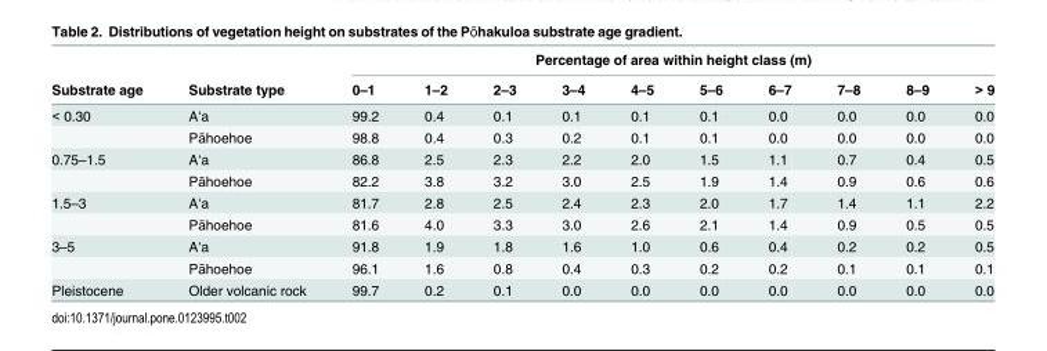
<table><thead><tr><td rowspan="2">Substrate age</td><td rowspan="2">Substrate type</td><td colspan="10">Percentage of area within height class (m)</td></tr><tr><td>0–1</td><td>1–2</td><td>2–3</td><td>3–4</td><td>4–5</td><td>5–6</td><td>6–7</td><td>7–8</td><td>8–9</td><td>&gt; 9</td></tr></thead><tbody><tr><td rowspan="2">&lt; 0.30</td><td>Aʻa</td><td>99.2</td><td>0.4</td><td>0.1</td><td>0.1</td><td>0.1</td><td>0.1</td><td>0.0</td><td>0.0</td><td>0.0</td><td>0.0</td></tr><tr><td>Pāhoehoe</td><td>98.8</td><td>0.4</td><td>0.3</td><td>0.2</td><td>0.1</td><td>0.1</td><td>0.0</td><td>0.0</td><td>0.0</td><td>0.0</td></tr><tr><td rowspan="2">0.75–1.5</td><td>Aʻa</td><td>86.8</td><td>2.5</td><td>2.3</td><td>2.2</td><td>2.0</td><td>1.5</td><td>1.1</td><td>0.7</td><td>0.4</td><td>0.5</td></tr><tr><td>Pāhoehoe</td><td>82.2</td><td>3.8</td><td>3.2</td><td>3.0</td><td>2.5</td><td>1.9</td><td>1.4</td><td>0.9</td><td>0.6</td><td>0.6</td></tr><tr><td rowspan="2">1.5–3</td><td>Aʻa</td><td>81.7</td><td>2.8</td><td>2.5</td><td>2.4</td><td>2.3</td><td>2.0</td><td>1.7</td><td>1.4</td><td>1.1</td><td>2.2</td></tr><tr><td>Pāhoehoe</td><td>81.6</td><td>4.0</td><td>3.3</td><td>3.0</td><td>2.6</td><td>2.1</td><td>1.4</td><td>0.9</td><td>0.5</td><td>0.5</td></tr><tr><td rowspan="2">3–5</td><td>Aʻa</td><td>91.8</td><td>1.9</td><td>1.8</td><td>1.6</td><td>1.0</td><td>0.6</td><td>0.4</td><td>0.2</td><td>0.2</td><td>0.5</td></tr><tr><td>Pāhoehoe</td><td>96.1</td><td>1.6</td><td>0.8</td><td>0.4</td><td>0.3</td><td>0.2</td><td>0.2</td><td>0.1</td><td>0.1</td><td>0.1</td></tr><tr><td>Pleistocene</td><td>Older volcanic rock</td><td>99.7</td><td>0.2</td><td>0.1</td><td>0.0</td><td>0.0</td><td>0.0</td><td>0.0</td><td>0.0</td><td>0.0</td><td>0.0</td></tr></tbody></table>